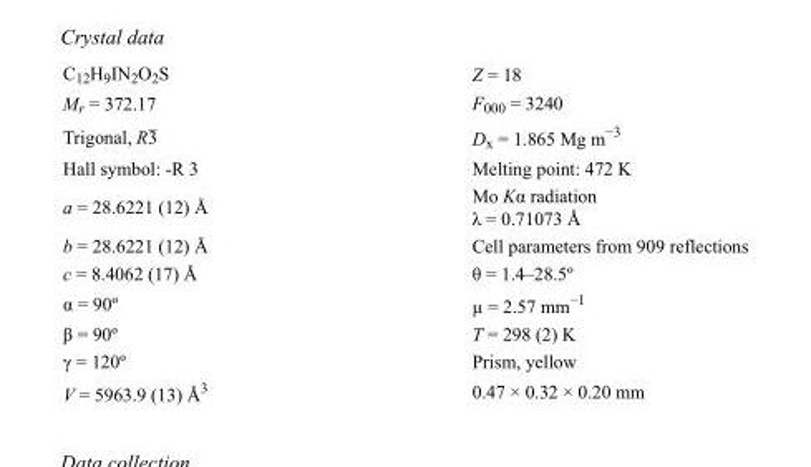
<table><tbody><tr><td>C<sub>12</sub>H<sub>9</sub>IN<sub>2</sub>O<sub>2</sub>S</td><td>Z = 18</td></tr><tr><td>M<sub>r</sub> = 372.17</td><td>F<sub>000</sub> = 3240</td></tr><tr><td>Trigonal, R3</td><td>D<sub>x</sub> = 1.865 Mg m<sup>−3</sup></td></tr><tr><td>Hall symbol: -R 3</td><td>Melting point: 472 K</td></tr><tr><td>a = 28.6221 (12) Å</td><td>Mo Kα radiation λ = 0.71073 Å</td></tr><tr><td>b = 28.6221 (12) Å</td><td>Cell parameters from 909 reflections</td></tr><tr><td>c = 8.4062 (17) Å</td><td>θ = 1.4–28.5º</td></tr><tr><td>α = 90º</td><td>µ = 2.57 mm<sup>−1</sup></td></tr><tr><td>β = 90º</td><td>T = 298 (2) K</td></tr><tr><td>γ = 120º</td><td>Prism, yellow</td></tr><tr><td>V = 5963.9 (13) Å<sup>3</sup></td><td>0.47 × 0.32 × 0.20 mm</td></tr></tbody></table>